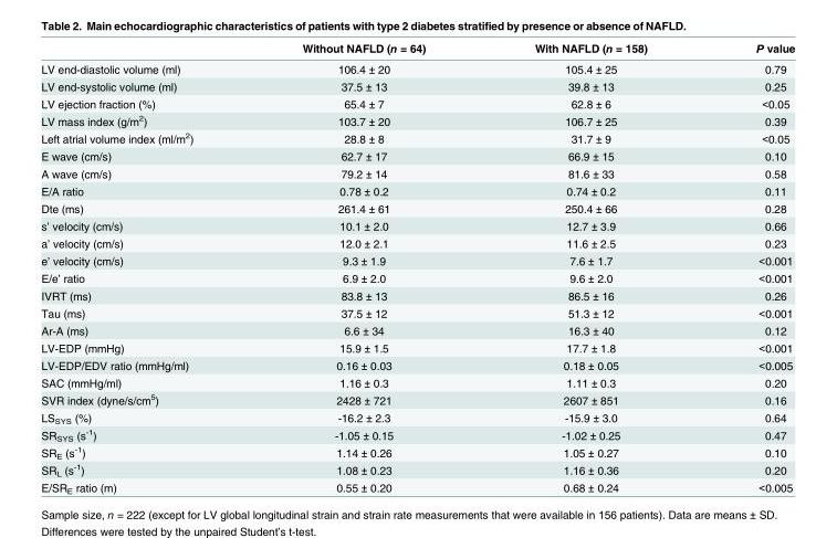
<table><thead><tr><td></td><td>Without NAFLD (n = 64)</td><td>With NAFLD (n = 158)</td><td>P value</td></tr></thead><tbody><tr><td>LV end-diastolic volume (ml)</td><td>106.4 ± 20</td><td>105.4 ± 25</td><td>0.79</td></tr><tr><td>LV end-systolic volume (ml)</td><td>37.5 ± 13</td><td>39.8 ± 13</td><td>0.25</td></tr><tr><td>LV ejection fraction (%)</td><td>65.4 ± 7</td><td>62.8 ± 6</td><td>&lt;0.05</td></tr><tr><td>LV mass index (g/m<sup>2</sup>)</td><td>103.7 ± 20</td><td>106.7 ± 25</td><td>0.39</td></tr><tr><td>Left atrial volume index (ml/m<sup>2</sup>)</td><td>28.8 ± 8</td><td>31.7 ± 9</td><td>&lt;0.05</td></tr><tr><td>E wave (cm/s)</td><td>62.7 ± 17</td><td>66.9 ± 15</td><td>0.10</td></tr><tr><td>A wave (cm/s)</td><td>79.2 ± 14</td><td>81.6 ± 33</td><td>0.58</td></tr><tr><td>E/A ratio</td><td>0.78 ± 0.2</td><td>0.74 ± 0.2</td><td>0.11</td></tr><tr><td>Dte (ms)</td><td>261.4 ± 61</td><td>250.4 ± 66</td><td>0.28</td></tr><tr><td>s’ velocity (cm/s)</td><td>10.1 ± 2.0</td><td>12.7 ± 3.9</td><td>0.66</td></tr><tr><td>a’ velocity (cm/s)</td><td>12.0 ± 2.1</td><td>11.6 ± 2.5</td><td>0.23</td></tr><tr><td>e’ velocity (cm/s)</td><td>9.3 ± 1.9</td><td>7.6 ± 1.7</td><td>&lt;0.001</td></tr><tr><td>E/e’ ratio</td><td>6.9 ± 2.0</td><td>9.6 ± 2.0</td><td>&lt;0.001</td></tr><tr><td>IVRT (ms)</td><td>83.8 ± 13</td><td>86.5 ± 16</td><td>0.26</td></tr><tr><td>Tau (ms)</td><td>37.5 ± 12</td><td>51.3 ± 12</td><td>&lt;0.001</td></tr><tr><td>Ar-A (ms)</td><td>6.6 ± 34</td><td>16.3 ± 40</td><td>0.12</td></tr><tr><td>LV-EDP (mmHg)</td><td>15.9 ± 1.5</td><td>17.7 ± 1.8</td><td>&lt;0.001</td></tr><tr><td>LV-EDP/EDV ratio (mmHg/ml)</td><td>0.16 ± 0.03</td><td>0.18 ± 0.05</td><td>&lt;0.005</td></tr><tr><td>SAC (mmHg/ml)</td><td>1.16 ± 0.3</td><td>1.11 ± 0.3</td><td>0.20</td></tr><tr><td>SVR index (dyne/s/cm<sup>5</sup>)</td><td>2428 ± 721</td><td>2607 ± 851</td><td>0.16</td></tr><tr><td>LS<sub>SYS</sub> (%)</td><td>-16.2 ± 2.3</td><td>-15.9 ± 3.0</td><td>0.64</td></tr><tr><td>SR<sub>SYS</sub> (s<sup>-1</sup>)</td><td>-1.05 ± 0.15</td><td>-1.02 ± 0.25</td><td>0.47</td></tr><tr><td>SR<sub>E</sub> (s<sup>-1</sup>)</td><td>1.14 ± 0.26</td><td>1.05 ± 0.27</td><td>0.10</td></tr><tr><td>SR<sub>L</sub> (s<sup>-1</sup>)</td><td>1.08 ± 0.23</td><td>1.16 ± 0.36</td><td>0.20</td></tr><tr><td>E/SR<sub>E</sub> ratio (m)</td><td>0.55 ± 0.20</td><td>0.68 ± 0.24</td><td>&lt;0.005</td></tr></tbody></table>